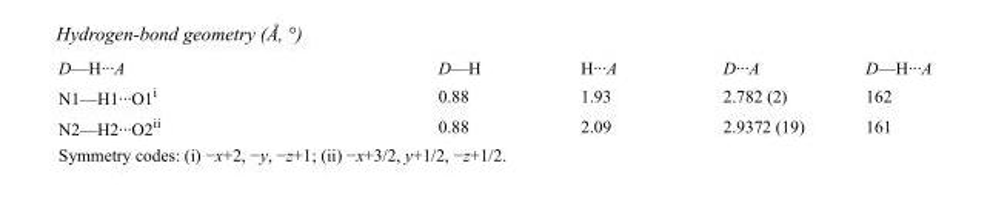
<table><tbody><tr><td>D—H···A</td><td>D—H</td><td>H···A</td><td>D···A</td><td>D—H···A</td></tr><tr><td>N1—H1···O1<sup>i</sup></td><td>0.88</td><td>1.93</td><td>2.782 (2)</td><td>162</td></tr><tr><td>N2—H2···O2<sup>ii</sup></td><td>0.88</td><td>2.09</td><td>2.9372 (19)</td><td>161</td></tr></tbody></table>